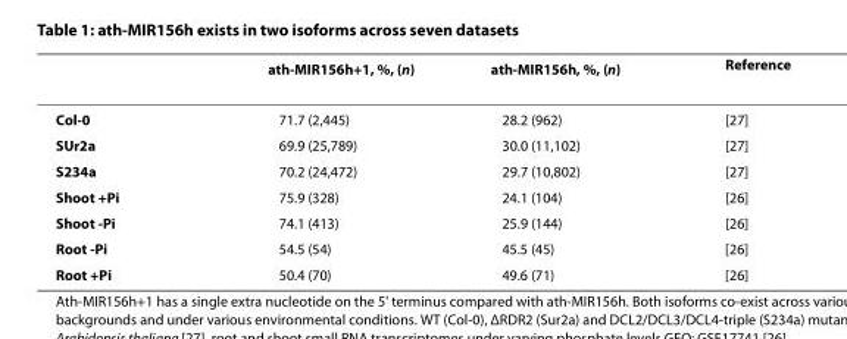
<table><thead><tr><td></td><td>ath-MIR156h+1, %, (n)</td><td>ath-MIR156h, %, (n)</td><td>Reference</td></tr></thead><tbody><tr><td>Col-0</td><td>71.7 (2,445)</td><td>28.2 (962)</td><td>[27]</td></tr><tr><td>SUr2a</td><td>69.9 (25,789)</td><td>30.0 (11,102)</td><td>[27]</td></tr><tr><td>S234a</td><td>70.2 (24,472)</td><td>29.7 (10,802)</td><td>[27]</td></tr><tr><td>Shoot +Pi</td><td>75.9 (328)</td><td>24.1 (104)</td><td>[26]</td></tr><tr><td>Shoot -Pi</td><td>74.1 (413)</td><td>25.9 (144)</td><td>[26]</td></tr><tr><td>Root -Pi</td><td>54.5 (54)</td><td>45.5 (45)</td><td>[26]</td></tr><tr><td>Root +Pi</td><td>50.4 (70)</td><td>49.6 (71)</td><td>[26]</td></tr></tbody></table>